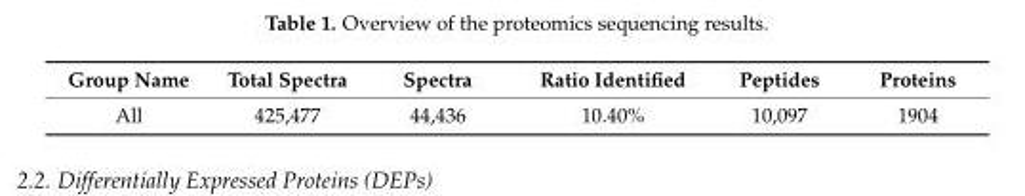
<table><thead><tr><td>Group Name</td><td>Total Spectra</td><td>Spectra</td><td>Ratio Identified</td><td>Peptides</td><td>Proteins</td></tr></thead><tbody><tr><td>All</td><td>425,477</td><td>44,436</td><td>10.40%</td><td>10,097</td><td>1904</td></tr></tbody></table>